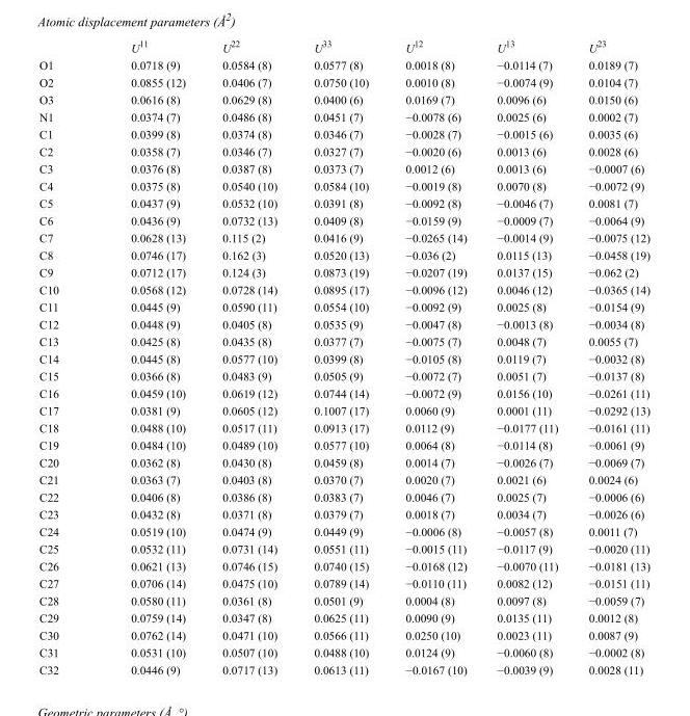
<table><thead><tr><td></td><td>U<sup>11</sup></td><td>U<sup>22</sup></td><td>U<sup>33</sup></td><td>U<sup>12</sup></td><td>U<sup>13</sup></td><td>U<sup>23</sup></td></tr></thead><tbody><tr><td>O1</td><td>0.0718 (9)</td><td>0.0584 (8)</td><td>0.0577 (8)</td><td>0.0018 (8)</td><td>−0.0114 (7)</td><td>0.0189 (7)</td></tr><tr><td>O2</td><td>0.0855 (12)</td><td>0.0406 (7)</td><td>0.0750 (10)</td><td>0.0010 (8)</td><td>−0.0074 (9)</td><td>0.0104 (7)</td></tr><tr><td>O3</td><td>0.0616 (8)</td><td>0.0629 (8)</td><td>0.0400 (6)</td><td>0.0169 (7)</td><td>0.0096 (6)</td><td>0.0150 (6)</td></tr><tr><td>N1</td><td>0.0374 (7)</td><td>0.0486 (8)</td><td>0.0451 (7)</td><td>−0.0078 (6)</td><td>0.0025 (6)</td><td>0.0002 (7)</td></tr><tr><td>C1</td><td>0.0399 (8)</td><td>0.0374 (8)</td><td>0.0346 (7)</td><td>−0.0028 (7)</td><td>−0.0015 (6)</td><td>0.0035 (6)</td></tr><tr><td>C2</td><td>0.0358 (7)</td><td>0.0346 (7)</td><td>0.0327 (7)</td><td>−0.0020 (6)</td><td>0.0013 (6)</td><td>0.0028 (6)</td></tr><tr><td>C3</td><td>0.0376 (8)</td><td>0.0387 (8)</td><td>0.0373 (7)</td><td>0.0012 (6)</td><td>0.0013 (6)</td><td>−0.0007 (6)</td></tr><tr><td>C4</td><td>0.0375 (8)</td><td>0.0540 (10)</td><td>0.0584 (10)</td><td>−0.0019 (8)</td><td>0.0070 (8)</td><td>−0.0072 (9)</td></tr><tr><td>C5</td><td>0.0437 (9)</td><td>0.0532 (10)</td><td>0.0391 (8)</td><td>−0.0092 (8)</td><td>−0.0046 (7)</td><td>0.0081 (7)</td></tr><tr><td>C6</td><td>0.0436 (9)</td><td>0.0732 (13)</td><td>0.0409 (8)</td><td>−0.0159 (9)</td><td>−0.0009 (7)</td><td>−0.0064 (9)</td></tr><tr><td>C7</td><td>0.0628 (13)</td><td>0.115 (2)</td><td>0.0416 (9)</td><td>−0.0265 (14)</td><td>−0.0014 (9)</td><td>−0.0075 (12)</td></tr><tr><td>C8</td><td>0.0746 (17)</td><td>0.162 (3)</td><td>0.0520 (13)</td><td>−0.036 (2)</td><td>0.0115 (13)</td><td>−0.0458 (19)</td></tr><tr><td>C9</td><td>0.0712 (17)</td><td>0.124 (3)</td><td>0.0873 (19)</td><td>−0.0207 (19)</td><td>0.0137 (15)</td><td>−0.062 (2)</td></tr><tr><td>C10</td><td>0.0568 (12)</td><td>0.0728 (14)</td><td>0.0895 (17)</td><td>−0.0096 (12)</td><td>0.0046 (12)</td><td>−0.0365 (14)</td></tr><tr><td>C11</td><td>0.0445 (9)</td><td>0.0590 (11)</td><td>0.0554 (10)</td><td>−0.0092 (9)</td><td>0.0025 (8)</td><td>−0.0154 (9)</td></tr><tr><td>C12</td><td>0.0448 (9)</td><td>0.0405 (8)</td><td>0.0535 (9)</td><td>−0.0047 (8)</td><td>−0.0013 (8)</td><td>−0.0034 (8)</td></tr><tr><td>C13</td><td>0.0425 (8)</td><td>0.0435 (8)</td><td>0.0377 (7)</td><td>−0.0075 (7)</td><td>0.0048 (7)</td><td>0.0055 (7)</td></tr><tr><td>C14</td><td>0.0445 (8)</td><td>0.0577 (10)</td><td>0.0399 (8)</td><td>−0.0105 (8)</td><td>0.0119 (7)</td><td>−0.0032 (8)</td></tr><tr><td>C15</td><td>0.0366 (8)</td><td>0.0483 (9)</td><td>0.0505 (9)</td><td>−0.0072 (7)</td><td>0.0051 (7)</td><td>−0.0137 (8)</td></tr><tr><td>C16</td><td>0.0459 (10)</td><td>0.0619 (12)</td><td>0.0744 (14)</td><td>−0.0072 (9)</td><td>0.0156 (10)</td><td>−0.0261 (11)</td></tr><tr><td>C17</td><td>0.0381 (9)</td><td>0.0605 (12)</td><td>0.1007 (17)</td><td>0.0060 (9)</td><td>0.0001 (11)</td><td>−0.0292 (13)</td></tr><tr><td>C18</td><td>0.0488 (10)</td><td>0.0517 (11)</td><td>0.0913 (17)</td><td>0.0112 (9)</td><td>−0.0177 (11)</td><td>−0.0161 (11)</td></tr><tr><td>C19</td><td>0.0484 (10)</td><td>0.0489 (10)</td><td>0.0577 (10)</td><td>0.0064 (8)</td><td>−0.0114 (8)</td><td>−0.0061 (9)</td></tr><tr><td>C20</td><td>0.0362 (8)</td><td>0.0430 (8)</td><td>0.0459 (8)</td><td>0.0014 (7)</td><td>−0.0026 (7)</td><td>−0.0069 (7)</td></tr><tr><td>C21</td><td>0.0363 (7)</td><td>0.0403 (8)</td><td>0.0370 (7)</td><td>0.0020 (7)</td><td>0.0021 (6)</td><td>0.0024 (6)</td></tr><tr><td>C22</td><td>0.0406 (8)</td><td>0.0386 (8)</td><td>0.0383 (7)</td><td>0.0046 (7)</td><td>0.0025 (7)</td><td>−0.0006 (6)</td></tr><tr><td>C23</td><td>0.0432 (8)</td><td>0.0371 (8)</td><td>0.0379 (7)</td><td>0.0018 (7)</td><td>0.0034 (7)</td><td>−0.0026 (6)</td></tr><tr><td>C24</td><td>0.0519 (10)</td><td>0.0474 (9)</td><td>0.0449 (9)</td><td>−0.0006 (8)</td><td>−0.0057 (8)</td><td>0.0011 (7)</td></tr><tr><td>C25</td><td>0.0532 (11)</td><td>0.0731 (14)</td><td>0.0551 (11)</td><td>−0.0015 (11)</td><td>−0.0117 (9)</td><td>−0.0020 (11)</td></tr><tr><td>C26</td><td>0.0621 (13)</td><td>0.0746 (15)</td><td>0.0740 (15)</td><td>−0.0168 (12)</td><td>−0.0070 (11)</td><td>−0.0181 (13)</td></tr><tr><td>C27</td><td>0.0706 (14)</td><td>0.0475 (10)</td><td>0.0789 (14)</td><td>−0.0110 (11)</td><td>0.0082 (12)</td><td>−0.0151 (11)</td></tr><tr><td>C28</td><td>0.0580 (11)</td><td>0.0361 (8)</td><td>0.0501 (9)</td><td>0.0004 (8)</td><td>0.0097 (8)</td><td>−0.0059 (7)</td></tr><tr><td>C29</td><td>0.0759 (14)</td><td>0.0347 (8)</td><td>0.0625 (11)</td><td>0.0090 (9)</td><td>0.0135 (11)</td><td>0.0012 (8)</td></tr><tr><td>C30</td><td>0.0762 (14)</td><td>0.0471 (10)</td><td>0.0566 (11)</td><td>0.0250 (10)</td><td>0.0023 (11)</td><td>0.0087 (9)</td></tr><tr><td>C31</td><td>0.0531 (10)</td><td>0.0507 (10)</td><td>0.0488 (10)</td><td>0.0124 (9)</td><td>−0.0060 (8)</td><td>−0.0002 (8)</td></tr><tr><td>C32</td><td>0.0446 (9)</td><td>0.0717 (13)</td><td>0.0613 (11)</td><td>−0.0167 (10)</td><td>−0.0039 (9)</td><td>0.0028 (11)</td></tr></tbody></table>